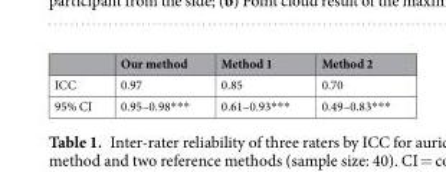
<table><thead><tr><td></td><td>Our method</td><td>Method 1</td><td>Method 2</td></tr></thead><tbody><tr><td>ICC</td><td>0.97</td><td>0.85</td><td>0.70</td></tr><tr><td>95% CI</td><td>0.95–0.98***</td><td>0.61–0.93***</td><td>0.49–0.83***</td></tr></tbody></table>